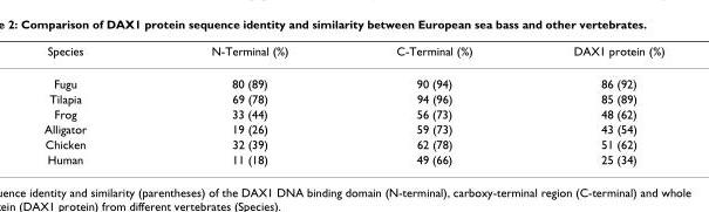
<table><thead><tr><td>Species</td><td>N-Terminal (%)</td><td>C-Terminal (%)</td><td>DAX1 protein (%)</td></tr></thead><tbody><tr><td>Fugu</td><td>80 (89)</td><td>90 (94)</td><td>86 (92)</td></tr><tr><td>Tilapia</td><td>69 (78)</td><td>94 (96)</td><td>85 (89)</td></tr><tr><td>Frog</td><td>33 (44)</td><td>56 (73)</td><td>48 (62)</td></tr><tr><td>Alligator</td><td>19 (26)</td><td>59 (73)</td><td>43 (54)</td></tr><tr><td>Chicken</td><td>32 (39)</td><td>62 (78)</td><td>51 (62)</td></tr><tr><td>Human</td><td>11 (18)</td><td>49 (66)</td><td>25 (34)</td></tr></tbody></table>